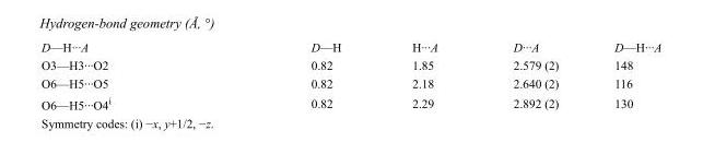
<table><tbody><tr><td>D—H···A</td><td>D—H</td><td>H···A</td><td>D···A</td><td>D—H···A</td></tr><tr><td>O3—H3···O2</td><td>0.82</td><td>1.85</td><td>2.579 (2)</td><td>148</td></tr><tr><td>O6—H5···O5</td><td>0.82</td><td>2.18</td><td>2.640 (2)</td><td>116</td></tr><tr><td>O6—H5···O4<sup>i</sup></td><td>0.82</td><td>2.29</td><td>2.892 (2)</td><td>130</td></tr></tbody></table>